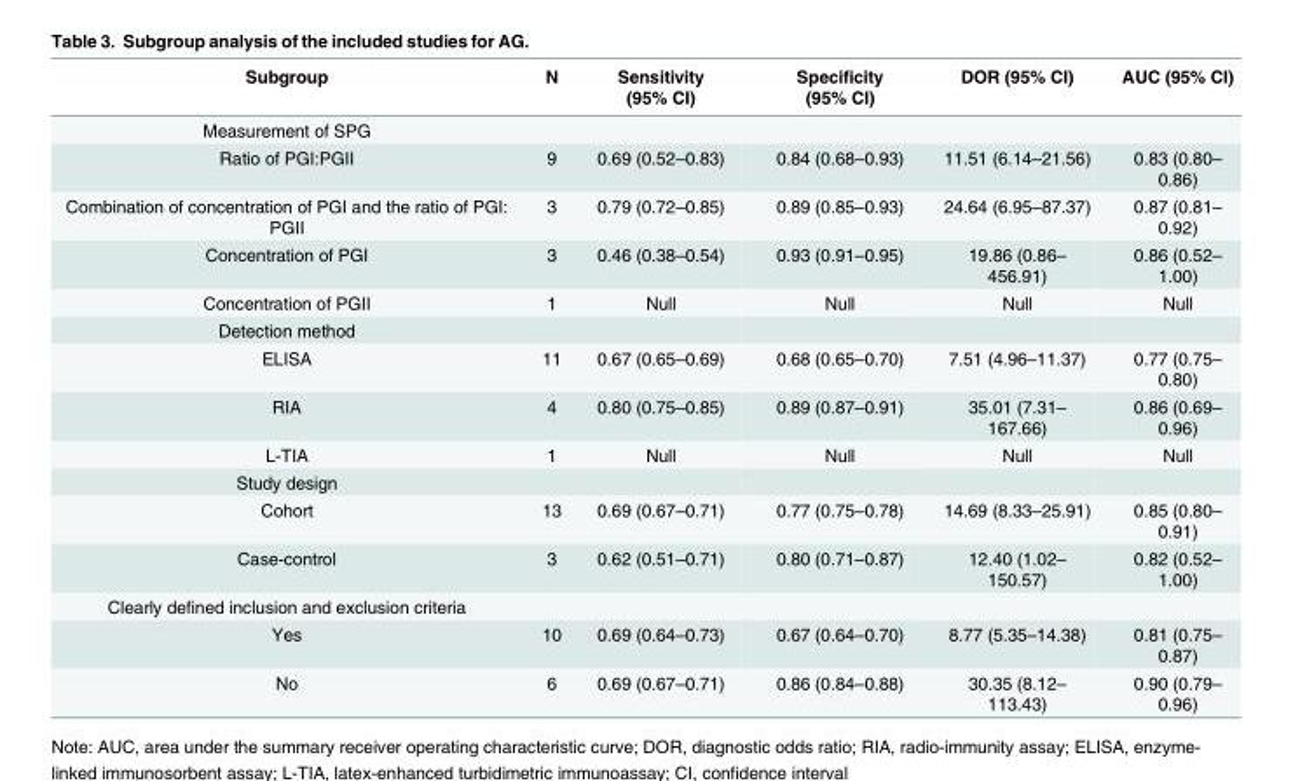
<table><thead><tr><td>Subgroup</td><td>N</td><td>Sensitivity (95% CI)</td><td>Specificity (95% CI)</td><td>DOR (95% CI)</td><td>AUC (95% CI)</td></tr></thead><tbody><tr><td colspan="6">Measurement of SPG</td></tr><tr><td>Ratio of PGI:PGII</td><td>9</td><td>0.69 (0.52–0.83)</td><td>0.84 (0.68–0.93)</td><td>11.51 (6.14–21.56)</td><td>0.83 (0.80– 0.86)</td></tr><tr><td>Combination of concentration of PGI and the ratio of PGI: PGII</td><td>3</td><td>0.79 (0.72–0.85)</td><td>0.89 (0.85–0.93)</td><td>24.64 (6.95–87.37)</td><td>0.87 (0.81– 0.92)</td></tr><tr><td>Concentration of PGI</td><td>3</td><td>0.46 (0.38–0.54)</td><td>0.93 (0.91–0.95)</td><td>19.86 (0.86– 456.91)</td><td>0.86 (0.52– 1.00)</td></tr><tr><td>Concentration of PGII</td><td>1</td><td>Null</td><td>Null</td><td>Null</td><td>Null</td></tr><tr><td colspan="6">Detection method</td></tr><tr><td>ELISA</td><td>11</td><td>0.67 (0.65–0.69)</td><td>0.68 (0.65–0.70)</td><td>7.51 (4.96–11.37)</td><td>0.77 (0.75– 0.80)</td></tr><tr><td>RIA</td><td>4</td><td>0.80 (0.75–0.85)</td><td>0.89 (0.87–0.91)</td><td>35.01 (7.31– 167.66)</td><td>0.86 (0.69– 0.96)</td></tr><tr><td>L-TIA</td><td>1</td><td>Null</td><td>Null</td><td>Null</td><td>Null</td></tr><tr><td colspan="6">Study design</td></tr><tr><td>Cohort</td><td>13</td><td>0.69 (0.67–0.71)</td><td>0.77 (0.75–0.78)</td><td>14.69 (8.33–25.91)</td><td>0.85 (0.80– 0.91)</td></tr><tr><td>Case-control</td><td>3</td><td>0.62 (0.51–0.71)</td><td>0.80 (0.71–0.87)</td><td>12.40 (1.02– 150.57)</td><td>0.82 (0.52– 1.00)</td></tr><tr><td colspan="6">Clearly defined inclusion and exclusion criteria</td></tr><tr><td>Yes</td><td>10</td><td>0.69 (0.64–0.73)</td><td>0.67 (0.64–0.70)</td><td>8.77 (5.35–14.38)</td><td>0.81 (0.75– 0.87)</td></tr><tr><td>No</td><td>6</td><td>0.69 (0.67–0.71)</td><td>0.86 (0.84–0.88)</td><td>30.35 (8.12– 113.43)</td><td>0.90 (0.79– 0.96)</td></tr></tbody></table>